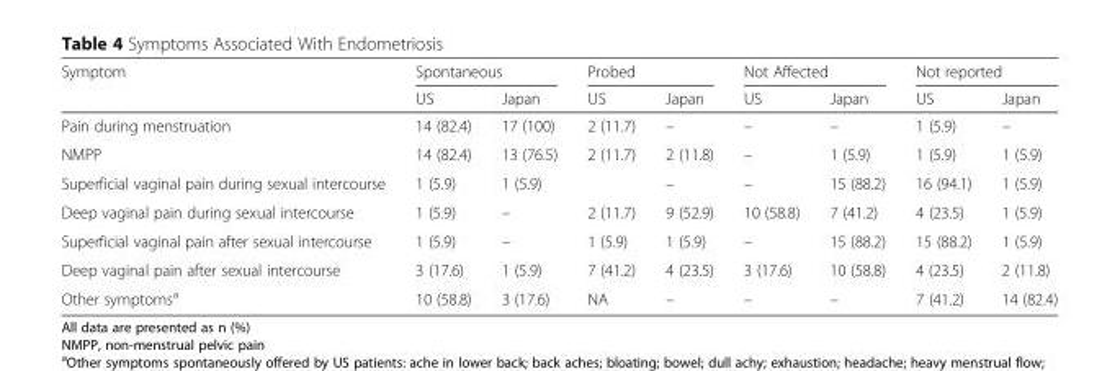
<table><thead><tr><td rowspan="2">Symptom</td><td colspan="2">Spontaneous</td><td colspan="2">Probed</td><td colspan="2">Not Affected</td><td colspan="2">Not reported</td></tr><tr><td>US</td><td>Japan</td><td>US</td><td>Japan</td><td>US</td><td>Japan</td><td>US</td><td>Japan</td></tr></thead><tbody><tr><td>Pain during menstruation</td><td>14 (82.4)</td><td>17 (100)</td><td>2 (11.7)</td><td>–</td><td>–</td><td>–</td><td>1 (5.9)</td><td>–</td></tr><tr><td>NMPP</td><td>14 (82.4)</td><td>13 (76.5)</td><td>2 (11.7)</td><td>2 (11.8)</td><td>–</td><td>1 (5.9)</td><td>1 (5.9)</td><td>1 (5.9)</td></tr><tr><td>Superficial vaginal pain during sexual intercourse</td><td>1 (5.9)</td><td>1 (5.9)</td><td></td><td>–</td><td>–</td><td>15 (88.2)</td><td>16 (94.1)</td><td>1 (5.9)</td></tr><tr><td>Deep vaginal pain during sexual intercourse</td><td>1 (5.9)</td><td>–</td><td>2 (11.7)</td><td>9 (52.9)</td><td>10 (58.8)</td><td>7 (41.2)</td><td>4 (23.5)</td><td>1 (5.9)</td></tr><tr><td>Superficial vaginal pain after sexual intercourse</td><td>1 (5.9)</td><td>–</td><td>1 (5.9)</td><td>1 (5.9)</td><td>–</td><td>15 (88.2)</td><td>15 (88.2)</td><td>1 (5.9)</td></tr><tr><td>Deep vaginal pain after sexual intercourse</td><td>3 (17.6)</td><td>1 (5.9)</td><td>7 (41.2)</td><td>4 (23.5)</td><td>3 (17.6)</td><td>10 (58.8)</td><td>4 (23.5)</td><td>2 (11.8)</td></tr><tr><td>Other symptoms<sup>a</sup></td><td>10 (58.8)</td><td>3 (17.6)</td><td>NA</td><td>–</td><td>–</td><td>–</td><td>7 (41.2)</td><td>14 (82.4)</td></tr></tbody></table>